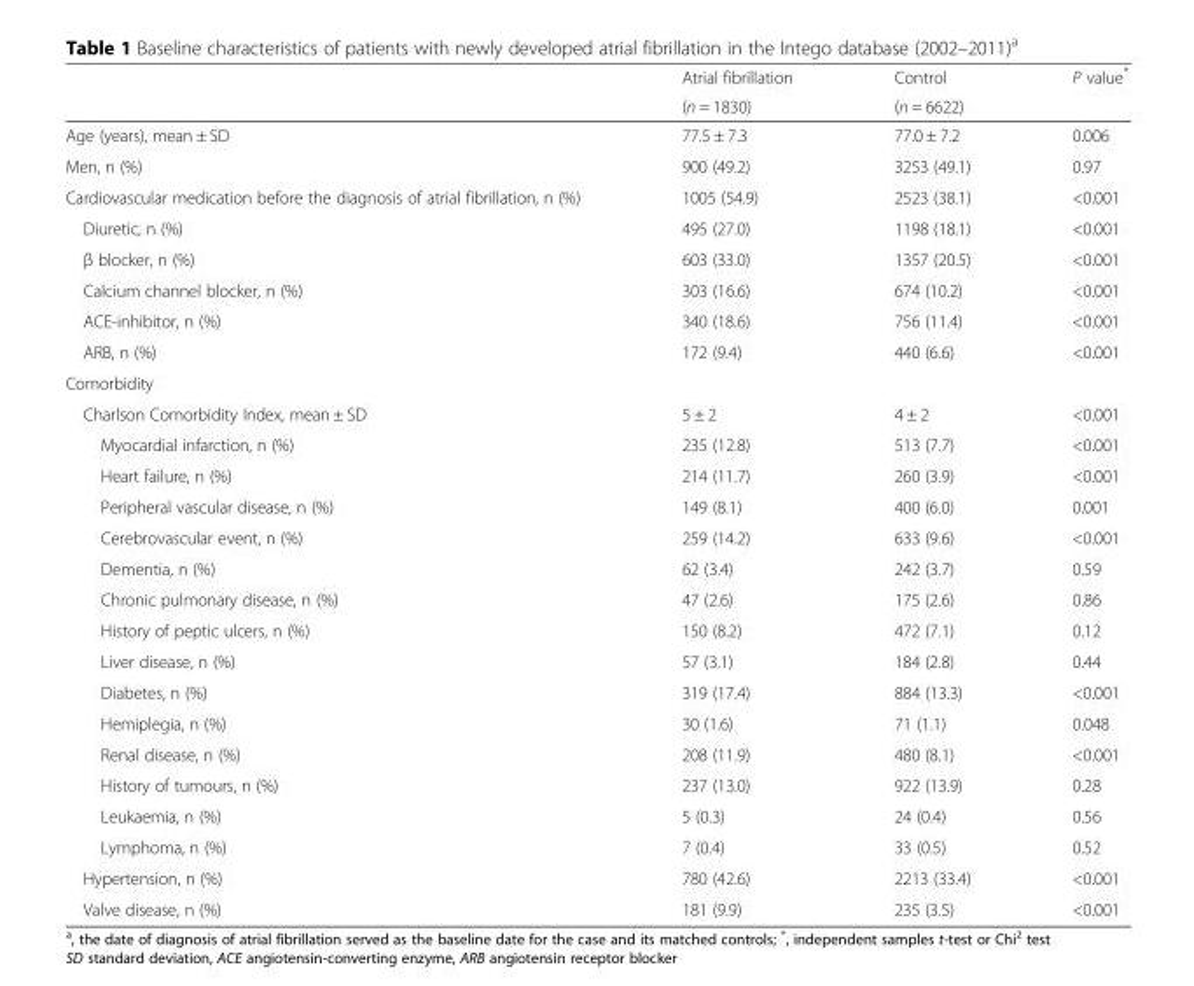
<table><thead><tr><td rowspan="2"></td><td rowspan="2">Atrial fibrillation (n = 1830)</td><td rowspan="2">Control (n = 6622)</td><td rowspan="2">P value*</td></tr><tr></tr></thead><tbody><tr><td>Age (years), mean ± SD</td><td>77.5 ± 7.3</td><td>77.0 ± 7.2</td><td>0.006</td></tr><tr><td>Men, n (%)</td><td>900 (49.2)</td><td>3253 (49.1)</td><td>0.97</td></tr><tr><td>Cardiovascular medication before the diagnosis of atrial fibrillation, n (%)</td><td>1005 (54.9)</td><td>2523 (38.1)</td><td>&lt;0.001</td></tr><tr><td>Diuretic, n (%)</td><td>495 (27.0)</td><td>1198 (18.1)</td><td>&lt;0.001</td></tr><tr><td>β blocker, n (%)</td><td>603 (33.0)</td><td>1357 (20.5)</td><td>&lt;0.001</td></tr><tr><td>Calcium channel blocker, n (%)</td><td>303 (16.6)</td><td>674 (10.2)</td><td>&lt;0.001</td></tr><tr><td>ACE-inhibitor, n (%)</td><td>340 (18.6)</td><td>756 (11.4)</td><td>&lt;0.001</td></tr><tr><td>ARB, n (%)</td><td>172 (9.4)</td><td>440 (6.6)</td><td>&lt;0.001</td></tr><tr><td colspan="4">Comorbidity</td></tr><tr><td>Charlson Comorbidity Index, mean ± SD</td><td>5 ± 2</td><td>4 ± 2</td><td>&lt;0.001</td></tr><tr><td>Myocardial infarction, n (%)</td><td>235 (12.8)</td><td>513 (7.7)</td><td>&lt;0.001</td></tr><tr><td>Heart failure, n (%)</td><td>214 (11.7)</td><td>260 (3.9)</td><td>&lt;0.001</td></tr><tr><td>Peripheral vascular disease, n (%)</td><td>149 (8.1)</td><td>400 (6.0)</td><td>0.001</td></tr><tr><td>Cerebrovascular event, n (%)</td><td>259 (14.2)</td><td>633 (9.6)</td><td>&lt;0.001</td></tr><tr><td>Dementia, n (%)</td><td>62 (3.4)</td><td>242 (3.7)</td><td>0.59</td></tr><tr><td>Chronic pulmonary disease, n (%)</td><td>47 (2.6)</td><td>175 (2.6)</td><td>0.86</td></tr><tr><td>History of peptic ulcers, n (%)</td><td>150 (8.2)</td><td>472 (7.1)</td><td>0.12</td></tr><tr><td>Liver disease, n (%)</td><td>57 (3.1)</td><td>184 (2.8)</td><td>0.44</td></tr><tr><td>Diabetes, n (%)</td><td>319 (17.4)</td><td>884 (13.3)</td><td>&lt;0.001</td></tr><tr><td>Hemiplegia, n (%)</td><td>30 (1.6)</td><td>71 (1.1)</td><td>0.048</td></tr><tr><td>Renal disease, n (%)</td><td>208 (11.9)</td><td>480 (8.1)</td><td>&lt;0.001</td></tr><tr><td>History of tumours, n (%)</td><td>237 (13.0)</td><td>922 (13.9)</td><td>0.28</td></tr><tr><td>Leukaemia, n (%)</td><td>5 (0.3)</td><td>24 (0.4)</td><td>0.56</td></tr><tr><td>Lymphoma, n (%)</td><td>7 (0.4)</td><td>33 (0.5)</td><td>0.52</td></tr><tr><td>Hypertension, n (%)</td><td>780 (42.6)</td><td>2213 (33.4)</td><td>&lt;0.001</td></tr><tr><td>Valve disease, n (%)</td><td>181 (9.9)</td><td>235 (3.5)</td><td>&lt;0.001</td></tr></tbody></table>